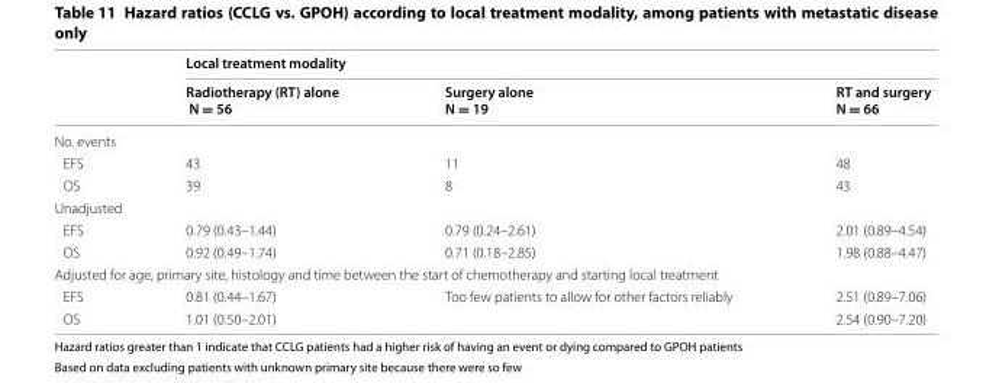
<table><thead><tr><td rowspan="2"></td><td colspan="3">Local treatment modality</td></tr><tr><td>Radiotherapy (RT) alone N = 56</td><td>Surgery alone N = 19</td><td>RT and surgery N = 66</td></tr></thead><tbody><tr><td colspan="4">No. events</td></tr><tr><td>EFS</td><td>43</td><td>11</td><td>48</td></tr><tr><td>OS</td><td>39</td><td>8</td><td>43</td></tr><tr><td colspan="4">Unadjusted</td></tr><tr><td>EFS</td><td>0.79 (0.43–1.44)</td><td>0.79 (0.24–2.61)</td><td>2.01 (0.89–4.54)</td></tr><tr><td>OS</td><td>0.92 (0.49–1.74)</td><td>0.71 (0.18–2.85)</td><td>1.98 (0.88–4.47)</td></tr><tr><td colspan="4">Adjusted for age, primary site, histology and time between the start of chemotherapy and starting local treatment</td></tr><tr><td>EFS</td><td>0.81 (0.44–1.67)</td><td rowspan="2">Too few patients to allow for other factors reliably</td><td>2.51 (0.89–7.06)</td></tr><tr><td>OS</td><td>1.01 (0.50–2.01)</td><td>2.54 (0.90–7.20)</td></tr></tbody></table>